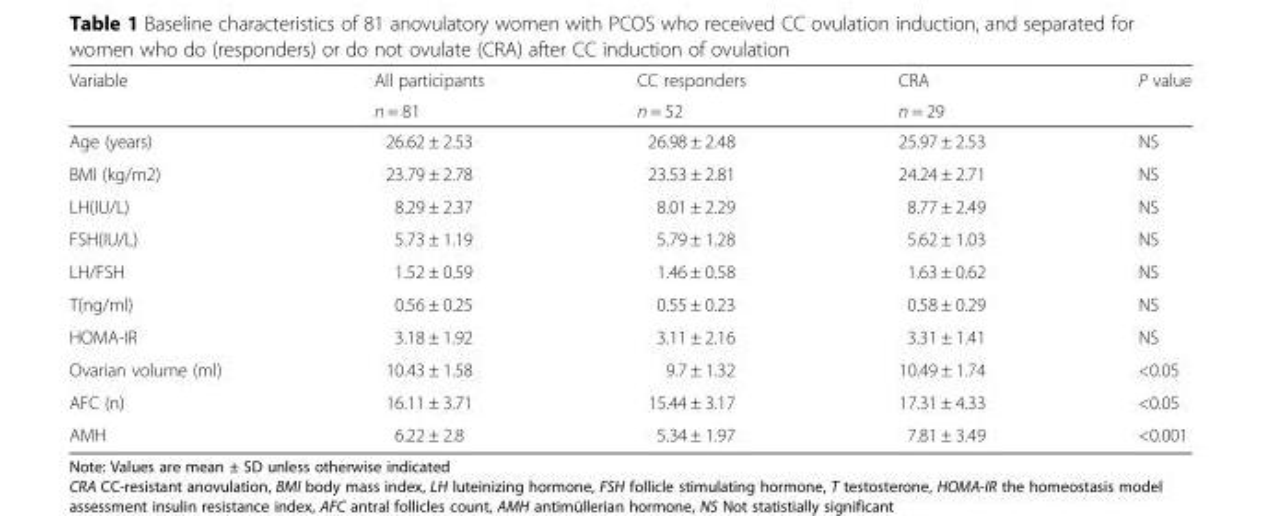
<table><thead><tr><td rowspan="2">Variable</td><td rowspan="2">All participants n = 81</td><td rowspan="2">CC responders n = 52</td><td rowspan="2">CRA n = 29</td><td rowspan="2">P value</td></tr><tr></tr></thead><tbody><tr><td>Age (years)</td><td>26.62 ± 2.53</td><td>26.98 ± 2.48</td><td>25.97 ± 2.53</td><td>NS</td></tr><tr><td>BMI (kg/m2)</td><td>23.79 ± 2.78</td><td>23.53 ± 2.81</td><td>24.24 ± 2.71</td><td>NS</td></tr><tr><td>LH(IU/L)</td><td>8.29 ± 2.37</td><td>8.01 ± 2.29</td><td>8.77 ± 2.49</td><td>NS</td></tr><tr><td>FSH(IU/L)</td><td>5.73 ± 1.19</td><td>5.79 ± 1.28</td><td>5.62 ± 1.03</td><td>NS</td></tr><tr><td>LH/FSH</td><td>1.52 ± 0.59</td><td>1.46 ± 0.58</td><td>1.63 ± 0.62</td><td>NS</td></tr><tr><td>T(ng/ml)</td><td>0.56 ± 0.25</td><td>0.55 ± 0.23</td><td>0.58 ± 0.29</td><td>NS</td></tr><tr><td>HOMA-IR</td><td>3.18 ± 1.92</td><td>3.11 ± 2.16</td><td>3.31 ± 1.41</td><td>NS</td></tr><tr><td>Ovarian volume (ml)</td><td>10.43 ± 1.58</td><td>9.7 ± 1.32</td><td>10.49 ± 1.74</td><td>&lt;0.05</td></tr><tr><td>AFC (n)</td><td>16.11 ± 3.71</td><td>15.44 ± 3.17</td><td>17.31 ± 4.33</td><td>&lt;0.05</td></tr><tr><td>AMH</td><td>6.22 ± 2.8</td><td>5.34 ± 1.97</td><td>7.81 ± 3.49</td><td>&lt;0.001</td></tr></tbody></table>